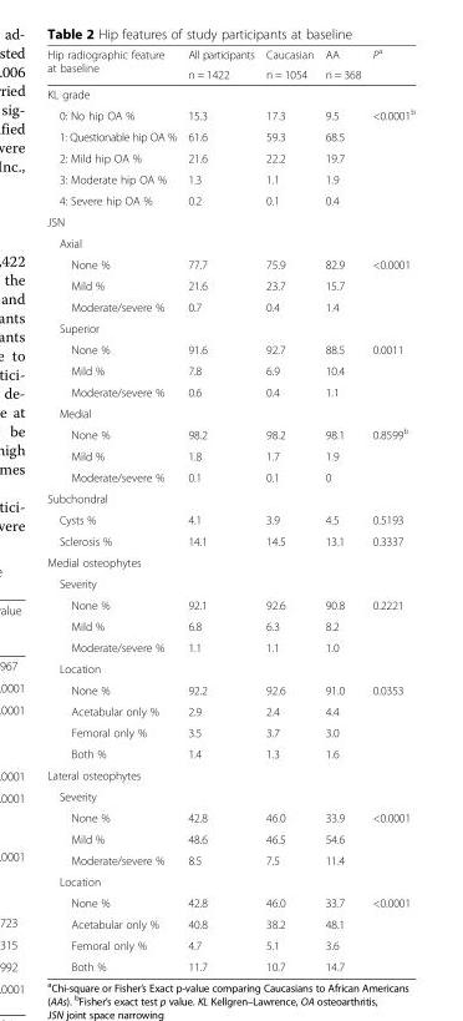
<table><thead><tr><td rowspan="2">Hip radiographic feature at baseline</td><td rowspan="2">All participants n = 1422</td><td rowspan="2">Caucasian n = 1054</td><td rowspan="2">AA n = 368</td><td rowspan="2">P<sup>a</sup></td></tr><tr></tr></thead><tbody><tr><td colspan="5">KL grade</td></tr><tr><td>0: No hip OA %</td><td>15.3</td><td>17.3</td><td>9.5</td><td>&lt;0.0001<sup>b</sup></td></tr><tr><td>1: Questionable hip OA %</td><td>61.6</td><td>59.3</td><td>68.5</td><td></td></tr><tr><td>2: Mild hip OA %</td><td>21.6</td><td>22.2</td><td>19.7</td><td></td></tr><tr><td>3: Moderate hip OA %</td><td>1.3</td><td>1.1</td><td>1.9</td><td></td></tr><tr><td>4: Severe hip OA %</td><td>0.2</td><td>0.1</td><td>0.4</td><td></td></tr><tr><td colspan="5">JSN</td></tr><tr><td colspan="5">Axial</td></tr><tr><td>None %</td><td>77.7</td><td>75.9</td><td>82.9</td><td>&lt;0.0001</td></tr><tr><td>Mild %</td><td>21.6</td><td>23.7</td><td>15.7</td><td></td></tr><tr><td>Moderate/severe %</td><td>0.7</td><td>0.4</td><td>1.4</td><td></td></tr><tr><td colspan="5">Superior</td></tr><tr><td>None %</td><td>91.6</td><td>92.7</td><td>88.5</td><td>0.0011</td></tr><tr><td>Mild %</td><td>7.8</td><td>6.9</td><td>10.4</td><td></td></tr><tr><td>Moderate/severe %</td><td>0.6</td><td>0.4</td><td>1.1</td><td></td></tr><tr><td colspan="5">Medial</td></tr><tr><td>None %</td><td>98.2</td><td>98.2</td><td>98.1</td><td>0.8599<sup>b</sup></td></tr><tr><td>Mild %</td><td>1.8</td><td>1.7</td><td>1.9</td><td></td></tr><tr><td>Moderate/severe %</td><td>0.1</td><td>0.1</td><td>0</td><td></td></tr><tr><td colspan="5">Subchondral</td></tr><tr><td>Cysts %</td><td>4.1</td><td>3.9</td><td>4.5</td><td>0.5193</td></tr><tr><td>Sclerosis %</td><td>14.1</td><td>14.5</td><td>13.1</td><td>0.3337</td></tr><tr><td colspan="5">Medial osteophytes</td></tr><tr><td colspan="5">Severity</td></tr><tr><td>None %</td><td>92.1</td><td>92.6</td><td>90.8</td><td>0.2221</td></tr><tr><td>Mild %</td><td>6.8</td><td>6.3</td><td>8.2</td><td></td></tr><tr><td>Moderate/severe %</td><td>1.1</td><td>1.1</td><td>1.0</td><td></td></tr><tr><td colspan="5">Location</td></tr><tr><td>None %</td><td>92.2</td><td>92.6</td><td>91.0</td><td>0.0353</td></tr><tr><td>Acetabular only %</td><td>2.9</td><td>2.4</td><td>4.4</td><td></td></tr><tr><td>Femoral only %</td><td>3.5</td><td>3.7</td><td>3.0</td><td></td></tr><tr><td>Both %</td><td>1.4</td><td>1.3</td><td>1.6</td><td></td></tr><tr><td colspan="5">Lateral osteophytes</td></tr><tr><td colspan="5">Severity</td></tr><tr><td>None %</td><td>42.8</td><td>46.0</td><td>33.9</td><td>&lt;0.0001</td></tr><tr><td>Mild %</td><td>48.6</td><td>46.5</td><td>54.6</td><td></td></tr><tr><td>Moderate/severe %</td><td>8.5</td><td>7.5</td><td>11.4</td><td></td></tr><tr><td colspan="5">Location</td></tr><tr><td>None %</td><td>42.8</td><td>46.0</td><td>33.7</td><td>&lt;0.0001</td></tr><tr><td>Acetabular only %</td><td>40.8</td><td>38.2</td><td>48.1</td><td></td></tr><tr><td>Femoral only %</td><td>4.7</td><td>5.1</td><td>3.6</td><td></td></tr><tr><td>Both %</td><td>11.7</td><td>10.7</td><td>14.7</td><td></td></tr></tbody></table>